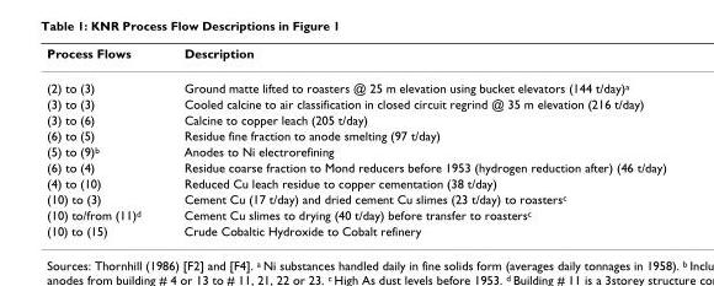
<table><thead><tr><td>Process Flows</td><td>Description</td></tr></thead><tbody><tr><td>(2) to (3)</td><td>Ground matte lifted to roasters @ 25 m elevation using bucket elevators (144 t/day)<sup>a</sup></td></tr><tr><td>(3) to (3)</td><td>Cooled calcine to air classification in closed circuit regrind @ 35 m elevation (216 t/day)</td></tr><tr><td>(3) to (6)</td><td>Calcine to copper leach (205 t/day)</td></tr><tr><td>(6) to (5)</td><td>Residue fine fraction to anode smelting (97 t/day)</td></tr><tr><td>(5) to (9)<sup>b</sup></td><td>Anodes to Ni electrorefining</td></tr><tr><td>(6) to (4)</td><td>Residue coarse fraction to Mond reducers before 1953 (hydrogen reduction after) (46 t/day)</td></tr><tr><td>(4) to (10)</td><td>Reduced Cu leach residue to copper cementation (38 t/day)</td></tr><tr><td>(10) to (3)</td><td>Cement Cu (17 t/day) and dried cement Cu slimes (23 t/day) to roasters<sup>c</sup></td></tr><tr><td>(10) to/from (11)<sup>d</sup></td><td>Cement Cu slimes to drying (40 t/day) before transfer to roasters<sup>c</sup></td></tr><tr><td>(10) to (15)</td><td>Crude Cobaltic Hydroxide to Cobalt refinery</td></tr></tbody></table>